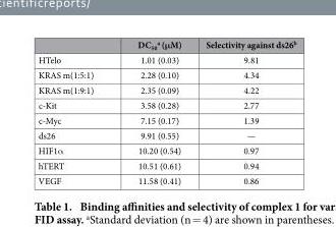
<table><thead><tr><td></td><td>DC<sub>50</sub> <sup>a</sup> (μM)</td><td>Selectivity against ds26<sup>b</sup></td></tr></thead><tbody><tr><td>HTelo</td><td>1.01 (0.03)</td><td>9.81</td></tr><tr><td>KRAS m(1:5:1)</td><td>2.28 (0.10)</td><td>4.34</td></tr><tr><td>KRAS m(1:9:1)</td><td>2.35 (0.09)</td><td>4.22</td></tr><tr><td>c-Kit</td><td>3.58 (0.28)</td><td>2.77</td></tr><tr><td>c-Myc</td><td>7.15 (0.17)</td><td>1.39</td></tr><tr><td>ds26</td><td>9.91 (0.55)</td><td>—</td></tr><tr><td>HIF1α</td><td>10.20 (0.54)</td><td>0.97</td></tr><tr><td>hTERT</td><td>10.51 (0.61)</td><td>0.94</td></tr><tr><td>VEGF</td><td>11.58 (0.41)</td><td>0.86</td></tr></tbody></table>